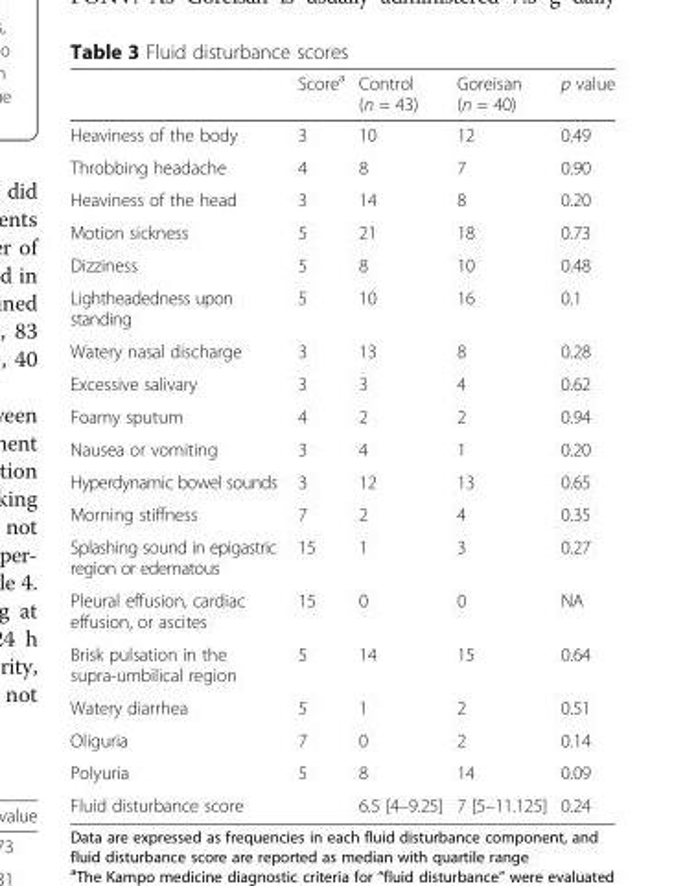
<table><thead><tr><td></td><td>Score<sup>a</sup></td><td>Control (n = 43)</td><td>Goreisan (n = 40)</td><td>p value</td></tr></thead><tbody><tr><td>Heaviness of the body</td><td>3</td><td>10</td><td>12</td><td>0.49</td></tr><tr><td>Throbbing headache</td><td>4</td><td>8</td><td>7</td><td>0.90</td></tr><tr><td>Heaviness of the head</td><td>3</td><td>14</td><td>8</td><td>0.20</td></tr><tr><td>Motion sickness</td><td>5</td><td>21</td><td>18</td><td>0.73</td></tr><tr><td>Dizziness</td><td>5</td><td>8</td><td>10</td><td>0.48</td></tr><tr><td>Lightheadedness upon standing</td><td>5</td><td>10</td><td>16</td><td>0.1</td></tr><tr><td>Watery nasal discharge</td><td>3</td><td>13</td><td>8</td><td>0.28</td></tr><tr><td>Excessive salivary</td><td>3</td><td>3</td><td>4</td><td>0.62</td></tr><tr><td>Foamy sputum</td><td>4</td><td>2</td><td>2</td><td>0.94</td></tr><tr><td>Nausea or vomiting</td><td>3</td><td>4</td><td>1</td><td>0.20</td></tr><tr><td>Hyperdynamic bowel sounds</td><td>3</td><td>12</td><td>13</td><td>0.65</td></tr><tr><td>Morning stiffness</td><td>7</td><td>2</td><td>4</td><td>0.35</td></tr><tr><td>Splashing sound in epigastric region or edematous</td><td>15</td><td>1</td><td>3</td><td>0.27</td></tr><tr><td>Pleural effusion, cardiac effusion, or ascites</td><td>15</td><td>0</td><td>0</td><td>NA</td></tr><tr><td>Brisk pulsation in the supra-umbilical region</td><td>5</td><td>14</td><td>15</td><td>0.64</td></tr><tr><td>Watery diarrhea</td><td>5</td><td>1</td><td>2</td><td>0.51</td></tr><tr><td>Oliguria</td><td>7</td><td>0</td><td>2</td><td>0.14</td></tr><tr><td>Polyuria</td><td>5</td><td>8</td><td>14</td><td>0.09</td></tr><tr><td>Fluid disturbance score</td><td></td><td>6.5 [4–9.25]</td><td>7 [5–11.125]</td><td>0.24</td></tr></tbody></table>